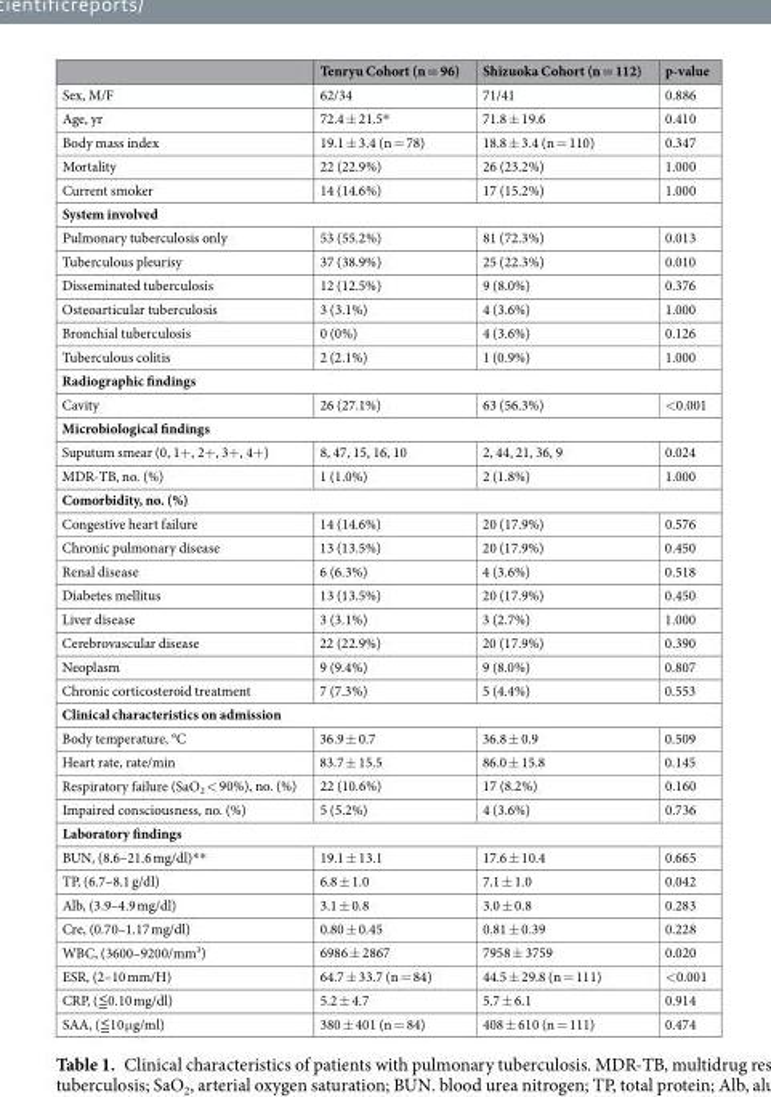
<table><thead><tr><td></td><td>Tenryu Cohort (n = 96)</td><td>Shizuoka Cohort (n = 112)</td><td>p-value</td></tr></thead><tbody><tr><td>Sex, M/F</td><td>62/34</td><td>71/41</td><td>0.886</td></tr><tr><td>Age, yr</td><td>72.4 ± 21.5*</td><td>71.8 ± 19.6</td><td>0.410</td></tr><tr><td>Body mass index</td><td>19.1 ± 3.4 (n = 78)</td><td>18.8 ± 3.4 (n = 110)</td><td>0.347</td></tr><tr><td>Mortality</td><td>22 (22.9%)</td><td>26 (23.2%)</td><td>1.000</td></tr><tr><td>Current smoker</td><td>14 (14.6%)</td><td>17 (15.2%)</td><td>1.000</td></tr><tr><td colspan="4">System involved</td></tr><tr><td>Pulmonary tuberculosis only</td><td>53 (55.2%)</td><td>81 (72.3%)</td><td>0.013</td></tr><tr><td>Tuberculous pleurisy</td><td>37 (38.9%)</td><td>25 (22.3%)</td><td>0.010</td></tr><tr><td>Disseminated tuberculosis</td><td>12 (12.5%)</td><td>9 (8.0%)</td><td>0.376</td></tr><tr><td>Osteoarticular tuberculosis</td><td>3 (3.1%)</td><td>4 (3.6%)</td><td>1.000</td></tr><tr><td>Bronchial tuberculosis</td><td>0 (0%)</td><td>4 (3.6%)</td><td>0.126</td></tr><tr><td>Tuberculous colitis</td><td>2 (2.1%)</td><td>1 (0.9%)</td><td>1.000</td></tr><tr><td colspan="4">Radiographic findings</td></tr><tr><td>Cavity</td><td>26 (27.1%)</td><td>63 (56.3%)</td><td>&lt;0.001</td></tr><tr><td colspan="4">Microbiological findings</td></tr><tr><td>Suputum smear (0, 1+, 2+, 3+, 4+)</td><td>8, 47, 15, 16, 10</td><td>2, 44, 21, 36, 9</td><td>0.024</td></tr><tr><td>MDR-TB, no. (%)</td><td>1 (1.0%)</td><td>2 (1.8%)</td><td>1.000</td></tr><tr><td colspan="4">Comorbidity, no. (%)</td></tr><tr><td>Congestive heart failure</td><td>14 (14.6%)</td><td>20 (17.9%)</td><td>0.576</td></tr><tr><td>Chronic pulmonary disease</td><td>13 (13.5%)</td><td>20 (17.9%)</td><td>0.450</td></tr><tr><td>Renal disease</td><td>6 (6.3%)</td><td>4 (3.6%)</td><td>0.518</td></tr><tr><td>Diabetes mellitus</td><td>13 (13.5%)</td><td>20 (17.9%)</td><td>0.450</td></tr><tr><td>Liver disease</td><td>3 (3.1%)</td><td>3 (2.7%)</td><td>1.000</td></tr><tr><td>Cerebrovascular disease</td><td>22 (22.9%)</td><td>20 (17.9%)</td><td>0.390</td></tr><tr><td>Neoplasm</td><td>9 (9.4%)</td><td>9 (8.0%)</td><td>0.807</td></tr><tr><td>Chronic corticosteroid treatment</td><td>7 (7.3%)</td><td>5 (4.4%)</td><td>0.553</td></tr><tr><td colspan="4">Clinical characteristics on admission</td></tr><tr><td>Body temperature, °C</td><td>36.9 ± 0.7</td><td>36.8 ± 0.9</td><td>0.509</td></tr><tr><td>Heart rate, rate/min</td><td>83.7 ± 15.5</td><td>86.0 ± 15.8</td><td>0.145</td></tr><tr><td>Respiratory failure (SaO<sub>2</sub> &lt; 90%), no. (%)</td><td>22 (10.6%)</td><td>17 (8.2%)</td><td>0.160</td></tr><tr><td>Impaired consciousness, no. (%)</td><td>5 (5.2%)</td><td>4 (3.6%)</td><td>0.736</td></tr><tr><td colspan="4">Laboratory findings</td></tr><tr><td>BUN, (8.6–21.6 mg/dl)**</td><td>19.1 ± 13.1</td><td>17.6 ± 10.4</td><td>0.665</td></tr><tr><td>TP, (6.7–8.1 g/dl)</td><td>6.8 ± 1.0</td><td>7.1 ± 1.0</td><td>0.042</td></tr><tr><td>Alb, (3.9–4.9 mg/dl)</td><td>3.1 ± 0.8</td><td>3.0 ± 0.8</td><td>0.283</td></tr><tr><td>Cre, (0.70–1.17 mg/dl)</td><td>0.80 ± 0.45</td><td>0.81 ± 0.39</td><td>0.228</td></tr><tr><td>WBC, (3600–9200/mm<sup>3</sup>)</td><td>6986 ± 2867</td><td>7958 ± 3759</td><td>0.020</td></tr><tr><td>ESR, (2–10 mm/H)</td><td>64.7 ± 33.7 (n = 84)</td><td>44.5 ± 29.8 (n = 111)</td><td>&lt;0.001</td></tr><tr><td>CRP, (≦0.10 mg/dl)</td><td>5.2 ± 4.7</td><td>5.7 ± 6.1</td><td>0.914</td></tr><tr><td>SAA, (≦10 μg/ml)</td><td>380 ± 401 (n = 84)</td><td>408 ± 610 (n = 111)</td><td>0.474</td></tr></tbody></table>